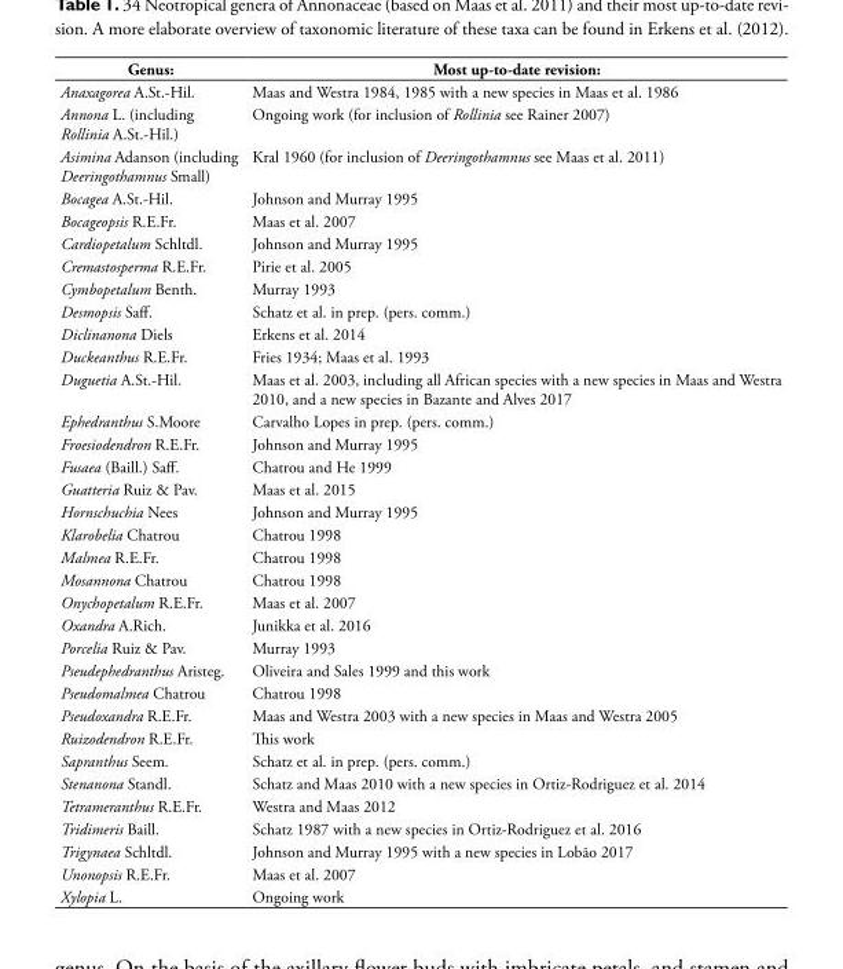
<table><tbody><tr><td>Genus:</td><td>Most up-to-date revision:</td></tr><tr><td>Anaxagorea A.St.-Hil.</td><td>Maas and Westra 1984, 1985 with a new species in Maas et al. 1986</td></tr><tr><td>Annona L. (including Rollinia A.St.-Hil.)</td><td>Ongoing work (for inclusion of Rollinia see Rainer 2007)</td></tr><tr><td>Asimina Adanson (including Deeringothamnus Small)</td><td>Kral 1960 (for inclusion of Deeringothamnus see Maas et al. 2011)</td></tr><tr><td>Bocagea A.St.-Hil.</td><td>Johnson and Murray 1995</td></tr><tr><td>Bocageopsis R.E.Fr.</td><td>Maas et al. 2007</td></tr><tr><td>Cardiopetalum Schltdl.</td><td>Johnson and Murray 1995</td></tr><tr><td>Cremastosperma R.E.Fr.</td><td>Pirie et al. 2005</td></tr><tr><td>Cymbopetalum Benth.</td><td>Murray 1993</td></tr><tr><td>Desmopsis Saff.</td><td>Schatz et al. in prep. (pers. comm.)</td></tr><tr><td>Diclinanona Diels</td><td>Erkens et al. 2014</td></tr><tr><td>Duckeanthus R.E.Fr.</td><td>Fries 1934; Maas et al. 1993</td></tr><tr><td>Duguetia A.St.-Hil.</td><td>Maas et al. 2003, including all African species with a new species in Maas and Westra 2010, and a new species in Bazante and Alves 2017</td></tr><tr><td>Ephedranthus S.Moore</td><td>Carvalho Lopes in prep. (pers. comm.)</td></tr><tr><td>Froesiodendron R.E.Fr.</td><td>Johnson and Murray 1995</td></tr><tr><td>Fusaea (Baill.) Saff.</td><td>Chatrou and He 1999</td></tr><tr><td>Guatteria Ruiz &amp; Pav.</td><td>Maas et al. 2015</td></tr><tr><td>Hornschuchia Nees</td><td>Johnson and Murray 1995</td></tr><tr><td>Klarobelia Chatrou</td><td>Chatrou 1998</td></tr><tr><td>Malmea R.E.Fr.</td><td>Chatrou 1998</td></tr><tr><td>Mosannona Chatrou</td><td>Chatrou 1998</td></tr><tr><td>Onychopetalum R.E.Fr.</td><td>Maas et al. 2007</td></tr><tr><td>Oxandra A.Rich.</td><td>Junikka et al. 2016</td></tr><tr><td>Porcelia Ruiz &amp; Pav.</td><td>Murray 1993</td></tr><tr><td>Pseudephedranthus Aristeg.</td><td>Oliveira and Sales 1999 and this work</td></tr><tr><td>Pseudomalmea Chatrou</td><td>Chatrou 1998</td></tr><tr><td>Pseudoxandra R.E.Fr.</td><td>Maas and Westra 2003 with a new species in Maas and Westra 2005</td></tr><tr><td>Ruizodendron R.E.Fr.</td><td>This work</td></tr><tr><td>Sapranthus Seem.</td><td>Schatz et al. in prep. (pers. comm.)</td></tr><tr><td>Stenanona Standl.</td><td>Schatz and Maas 2010 with a new species in Ortiz-Rodriguez et al. 2014</td></tr><tr><td>Tetrameranthus R.E.Fr.</td><td>Westra and Maas 2012</td></tr><tr><td>Tridimeris Baill.</td><td>Schatz 1987 with a new species in Ortiz-Rodriguez et al. 2016</td></tr><tr><td>Trigynaea Schltdl.</td><td>Johnson and Murray 1995 with a new species in Lobão 2017</td></tr><tr><td>Unonopsis R.E.Fr.</td><td>Maas et al. 2007</td></tr><tr><td>Xylopia L.</td><td>Ongoing work</td></tr></tbody></table>